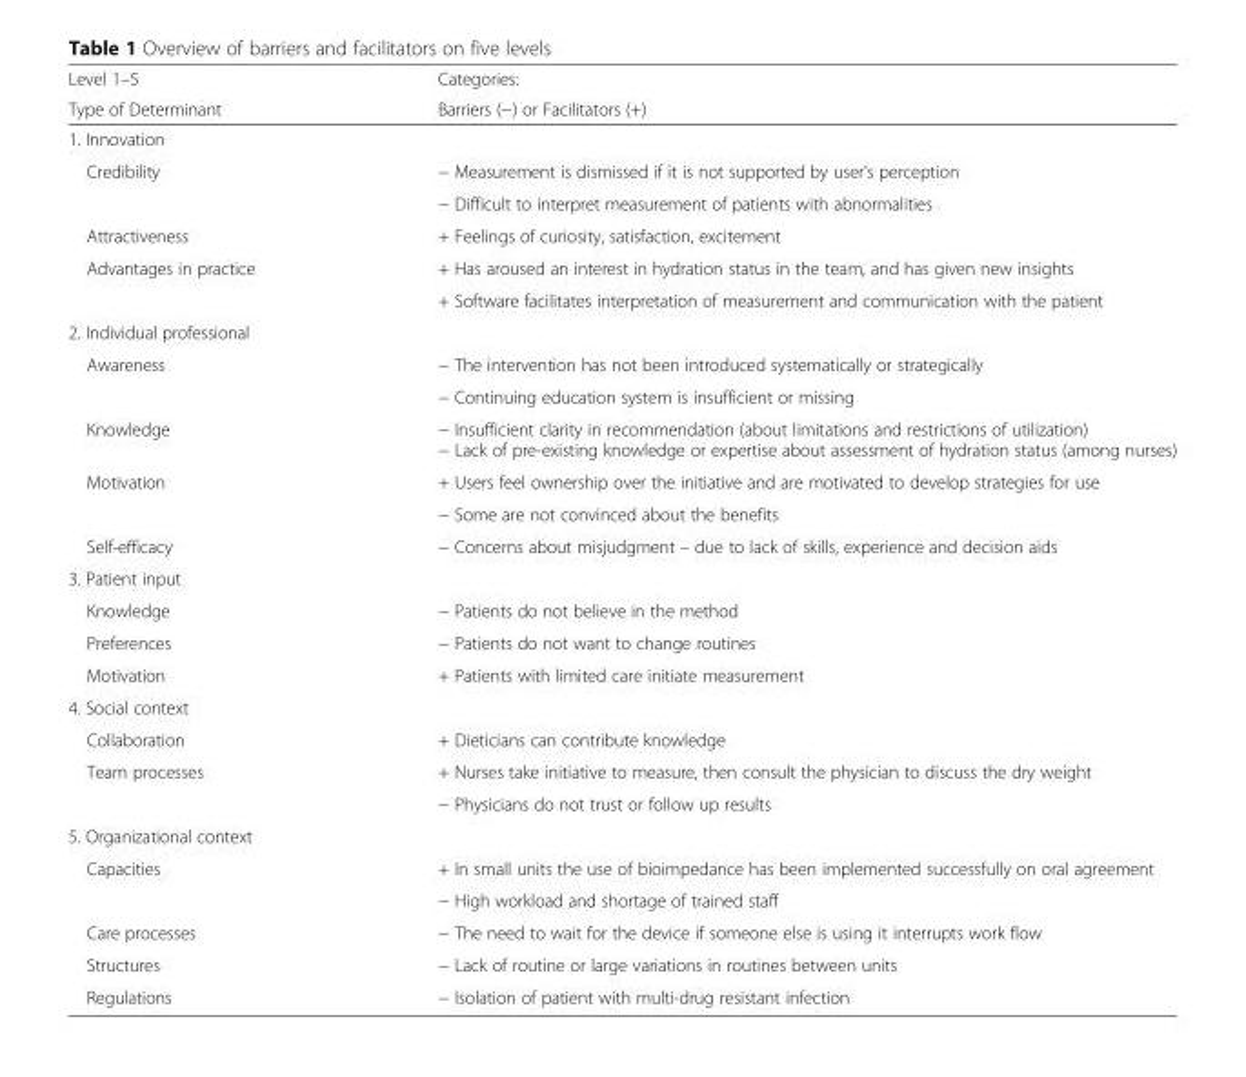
<table><thead><tr><td rowspan="2">Level 1–5 Type of Determinant</td><td rowspan="2">Categories: Barriers (−) or Facilitators (+)</td></tr><tr></tr></thead><tbody><tr><td colspan="2">1. Innovation</td></tr><tr><td rowspan="2">Credibility</td><td>− Measurement is dismissed if it is not supported by user’s perception</td></tr><tr><td>− Difficult to interpret measurement of patients with abnormalities</td></tr><tr><td>Attractiveness</td><td>+ Feelings of curiosity, satisfaction, excitement</td></tr><tr><td rowspan="2">Advantages in practice</td><td>+ Has aroused an interest in hydration status in the team, and has given new insights</td></tr><tr><td>+ Software facilitates interpretation of measurement and communication with the patient</td></tr><tr><td colspan="2">2. Individual professional</td></tr><tr><td rowspan="2">Awareness</td><td>− The intervention has not been introduced systematically or strategically</td></tr><tr><td>− Continuing education system is insufficient or missing</td></tr><tr><td>Knowledge</td><td>− Insufficient clarity in recommendation (about limitations and restrictions of utilization) − Lack of pre-existing knowledge or expertise about assessment of hydration status (among nurses)</td></tr><tr><td rowspan="2">Motivation</td><td>+ Users feel ownership over the initiative and are motivated to develop strategies for use</td></tr><tr><td>− Some are not convinced about the benefits</td></tr><tr><td>Self-efficacy</td><td>− Concerns about misjudgment – due to lack of skills, experience and decision aids</td></tr><tr><td colspan="2">3. Patient input</td></tr><tr><td>Knowledge</td><td>− Patients do not believe in the method</td></tr><tr><td>Preferences</td><td>− Patients do not want to change routines</td></tr><tr><td>Motivation</td><td>+ Patients with limited care initiate measurement</td></tr><tr><td colspan="2">4. Social context</td></tr><tr><td>Collaboration</td><td>+ Dieticians can contribute knowledge</td></tr><tr><td rowspan="2">Team processes</td><td>+ Nurses take initiative to measure, then consult the physician to discuss the dry weight</td></tr><tr><td>− Physicians do not trust or follow up results</td></tr><tr><td colspan="2">5. Organizational context</td></tr><tr><td rowspan="2">Capacities</td><td>+ In small units the use of bioimpedance has been implemented successfully on oral agreement</td></tr><tr><td>− High workload and shortage of trained staff</td></tr><tr><td>Care processes</td><td>− The need to wait for the device if someone else is using it interrupts work flow</td></tr><tr><td>Structures</td><td>− Lack of routine or large variations in routines between units</td></tr><tr><td>Regulations</td><td>− Isolation of patient with multi-drug resistant infection</td></tr></tbody></table>